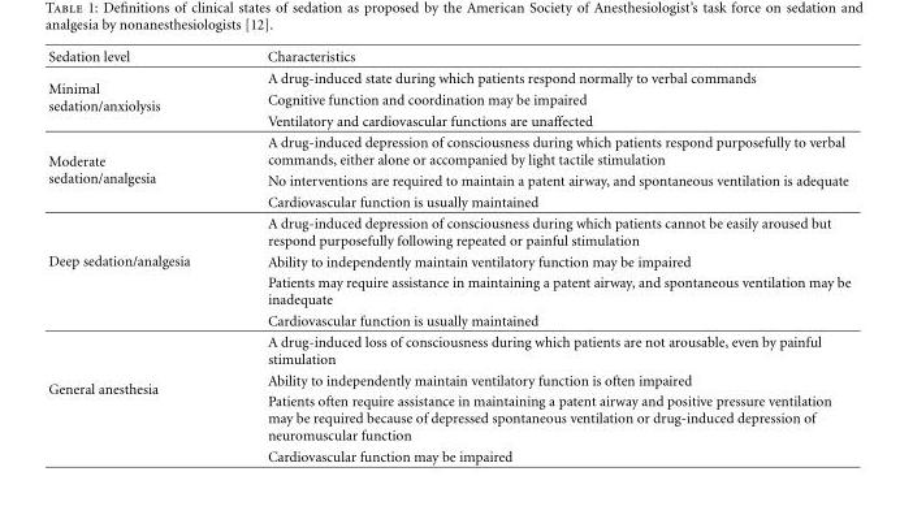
<table><thead><tr><td>Sedation level</td><td>Characteristics</td></tr></thead><tbody><tr><td rowspan="3">Minimal sedation/anxiolysis</td><td>A drug-induced state during which patients respond normally to verbal commands</td></tr><tr><td>Cognitive function and coordination may be impaired</td></tr><tr><td>Ventilatory and cardiovascular functions are unaffected</td></tr><tr><td rowspan="3">Moderate sedation/analgesia</td><td>A drug-induced depression of consciousness during which patients respond purposefully to verbal commands, either alone or accompanied by light tactile stimulation</td></tr><tr><td>No interventions are required to maintain a patent airway, and spontaneous ventilation is adequate</td></tr><tr><td>Cardiovascular function is usually maintained</td></tr><tr><td rowspan="5">Deep sedation/analgesia</td><td>A drug-induced depression of consciousness during which patients cannot be easily aroused but respond purposefully following repeated or painful stimulation</td></tr><tr><td>Ability to independently maintain ventilatory function may be impaired</td></tr><tr><td>Patients may require assistance in maintaining a patent airway, and spontaneous ventilation may be inadequate</td></tr><tr><td>Cardiovascular function is usually maintained</td></tr><tr><td>A drug-induced loss of consciousness during which patients are not arousable, even by painful stimulation</td></tr><tr><td rowspan="3">General anesthesia</td><td>Ability to independently maintain ventilatory function is often impaired</td></tr><tr><td>Patients often require assistance in maintaining a patent airway and positive pressure ventilation may be required because of depressed spontaneous ventilation or drug-induced depression of neuromuscular function</td></tr><tr><td>Cardiovascular function may be impaired</td></tr></tbody></table>